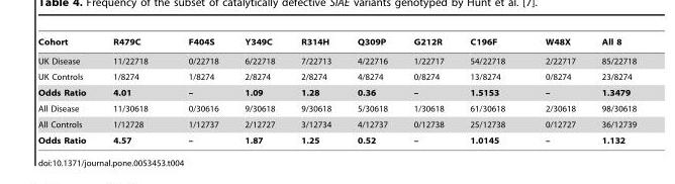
<table><thead><tr><td>Cohort</td><td>R479C</td><td>F404S</td><td>Y349C</td><td>R314H</td><td>Q309P</td><td>G212R</td><td>C196F</td><td>W48X</td><td>All 8</td></tr></thead><tbody><tr><td>UK Disease</td><td>11/22718</td><td>0/22718</td><td>6/22718</td><td>7/22713</td><td>4/22716</td><td>1/22717</td><td>54/22718</td><td>2/22717</td><td>85/22718</td></tr><tr><td>UK Controls</td><td>1/8274</td><td>1/8274</td><td>2/8274</td><td>2/8274</td><td>4/8274</td><td>0/8274</td><td>13/8274</td><td>0/8274</td><td>23/8274</td></tr><tr><td>Odds Ratio</td><td>4.01</td><td>–</td><td>1.09</td><td>1.28</td><td>0.36</td><td>–</td><td>1.5153</td><td>–</td><td>1.3479</td></tr><tr><td>All Disease</td><td>11/30618</td><td>0/30616</td><td>9/30618</td><td>9/30618</td><td>5/30618</td><td>1/30618</td><td>61/30618</td><td>2/30618</td><td>98/30618</td></tr><tr><td>All Controls</td><td>1/12728</td><td>1/12737</td><td>2/12727</td><td>3/12734</td><td>4/12737</td><td>0/12738</td><td>25/12738</td><td>0/12727</td><td>36/12739</td></tr><tr><td>Odds Ratio</td><td>4.57</td><td>–</td><td>1.87</td><td>1.25</td><td>0.52</td><td>–</td><td>1.0145</td><td>–</td><td>1.132</td></tr></tbody></table>